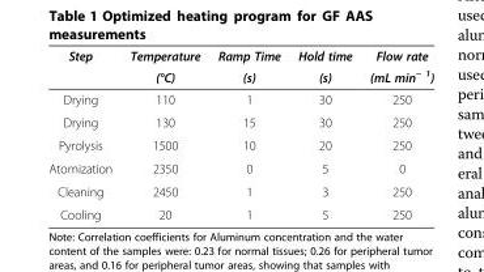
<table><thead><tr><td rowspan="2">Step</td><td rowspan="2">Temperature (°C)</td><td rowspan="2">Ramp Time (s)</td><td rowspan="2">Hold time (s)</td><td rowspan="2">Flow rate (mL min<sup>− 1</sup>)</td></tr><tr></tr></thead><tbody><tr><td>Drying</td><td>110</td><td>1</td><td>30</td><td>250</td></tr><tr><td>Drying</td><td>130</td><td>15</td><td>30</td><td>250</td></tr><tr><td>Pyrolysis</td><td>1500</td><td>10</td><td>20</td><td>250</td></tr><tr><td>Atomization</td><td>2350</td><td>0</td><td>5</td><td>0</td></tr><tr><td>Cleaning</td><td>2450</td><td>1</td><td>3</td><td>250</td></tr><tr><td>Cooling</td><td>20</td><td>1</td><td>5</td><td>250</td></tr></tbody></table>